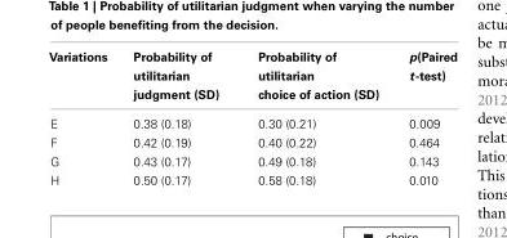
<table><thead><tr><td>Variations</td><td>Probability of utilitarian judgment (SD)</td><td>Probability of utilitarian choice of action (SD)</td><td>p(Paired t-test)</td></tr></thead><tbody><tr><td>E</td><td>0.38 (0.18)</td><td>0.30 (0.21)</td><td>0.009</td></tr><tr><td>F</td><td>0.42 (0.19)</td><td>0.40 (0.22)</td><td>0.464</td></tr><tr><td>G</td><td>0.43 (0.17)</td><td>0.49 (0.18)</td><td>0.143</td></tr><tr><td>H</td><td>0.50 (0.17)</td><td>0.58 (0.18)</td><td>0.010</td></tr></tbody></table>